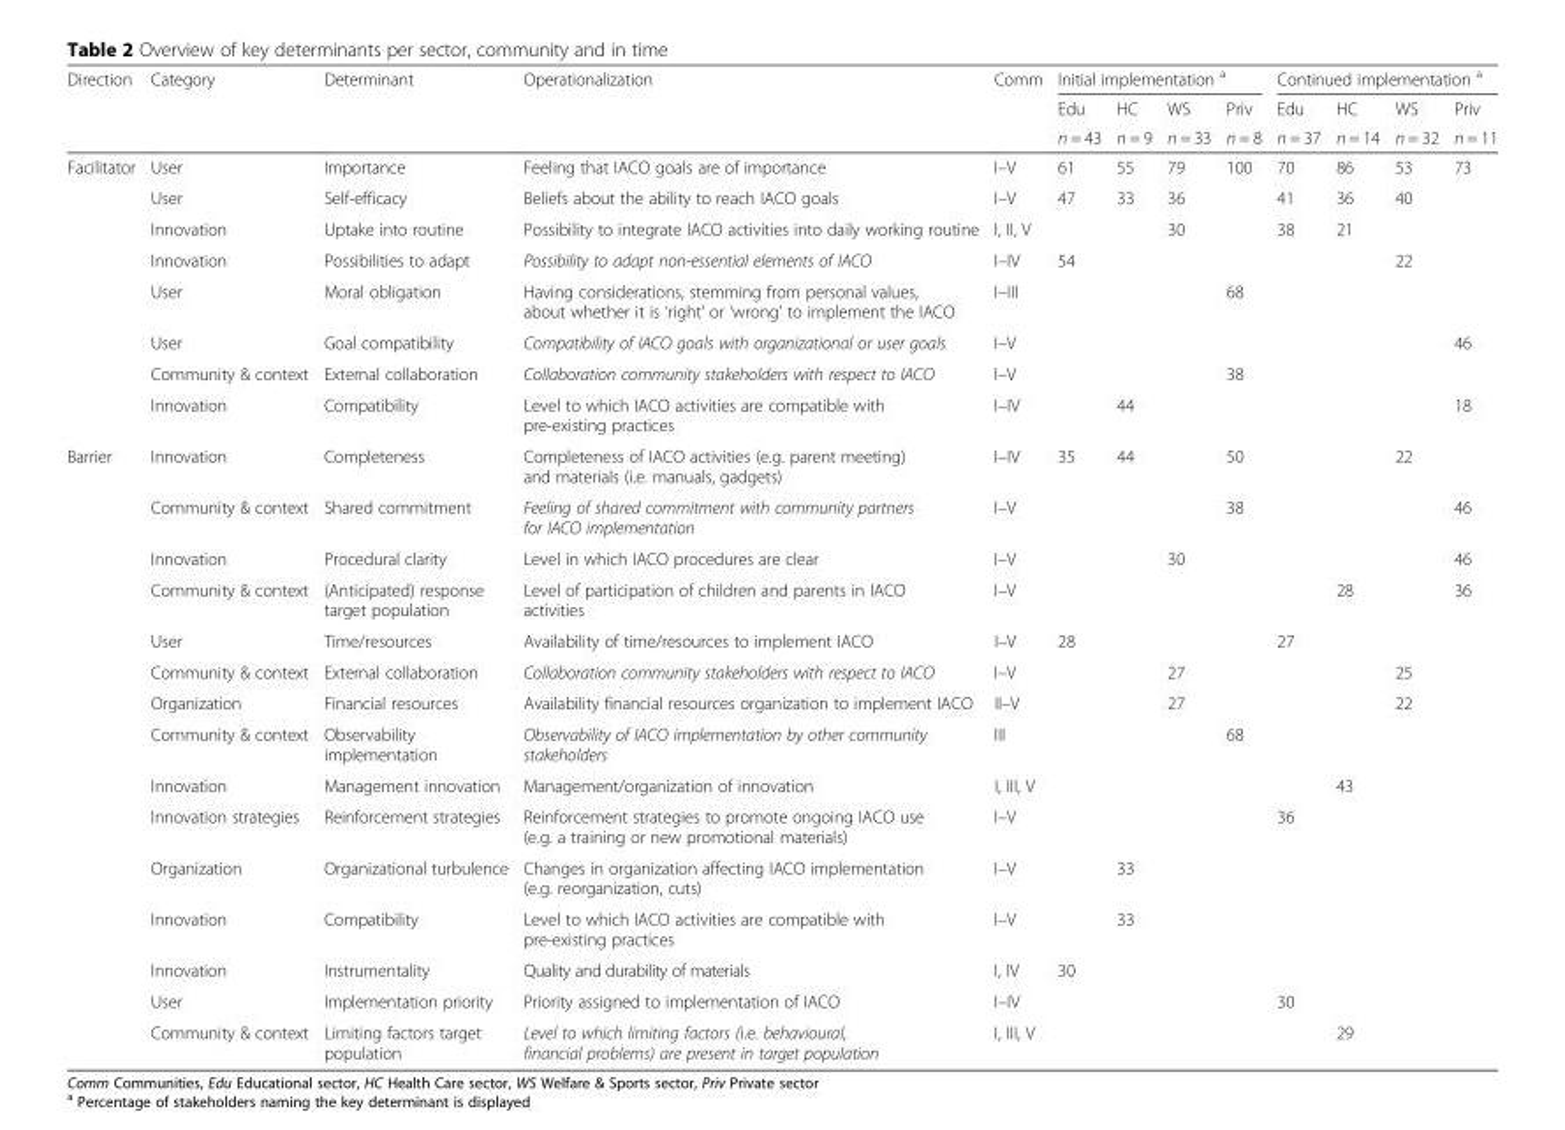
<table><thead><tr><td rowspan="3">Direction</td><td rowspan="3">Category</td><td rowspan="3">Determinant</td><td rowspan="3">Operationalization</td><td rowspan="3">Comm</td><td colspan="4">Initial implementation <sup>a</sup></td><td colspan="4">Continued implementation <sup>a</sup></td></tr><tr><td rowspan="2">Edu n = 43</td><td rowspan="2">HC n = 9</td><td rowspan="2">WS n = 33</td><td rowspan="2">Priv n = 8</td><td rowspan="2">Edu n = 37</td><td rowspan="2">HC n = 14</td><td rowspan="2">WS n = 32</td><td rowspan="2">Priv n = 11</td></tr><tr></tr></thead><tbody><tr><td rowspan="8">Facilitator</td><td>User</td><td>Importance</td><td>Feeling that IACO goals are of importance</td><td>I–V</td><td>61</td><td>55</td><td>79</td><td>100</td><td>70</td><td>86</td><td>53</td><td>73</td></tr><tr><td>User</td><td>Self-efficacy</td><td>Beliefs about the ability to reach IACO goals</td><td>I–V</td><td>47</td><td>33</td><td>36</td><td></td><td>41</td><td>36</td><td>40</td><td></td></tr><tr><td>Innovation</td><td>Uptake into routine</td><td>Possibility to integrate IACO activities into daily working routine</td><td>I, II, V</td><td></td><td></td><td>30</td><td></td><td>38</td><td>21</td><td></td><td></td></tr><tr><td>Innovation</td><td>Possibilities to adapt</td><td>Possibility to adapt non-essential elements of IACO</td><td>I–IV</td><td>54</td><td></td><td></td><td></td><td></td><td></td><td>22</td><td></td></tr><tr><td>User</td><td>Moral obligation</td><td>Having considerations, stemming from personal values, about whether it is ‘right’ or ‘wrong’ to implement the IACO</td><td>I–III</td><td></td><td></td><td></td><td>68</td><td></td><td></td><td></td><td></td></tr><tr><td>User</td><td>Goal compatibility</td><td>Compatibility of IACO goals with organizational or user goals</td><td>I–V</td><td></td><td></td><td></td><td></td><td></td><td></td><td></td><td>46</td></tr><tr><td>Community &amp; context</td><td>External collaboration</td><td>Collaboration community stakeholders with respect to IACO</td><td>I–V</td><td></td><td></td><td></td><td>38</td><td></td><td></td><td></td><td></td></tr><tr><td>Innovation</td><td>Compatibility</td><td>Level to which IACO activities are compatible with pre-existing practices</td><td>I–IV</td><td></td><td>44</td><td></td><td></td><td></td><td></td><td></td><td>18</td></tr><tr><td rowspan="15">Barrier</td><td>Innovation</td><td>Completeness</td><td>Completeness of IACO activities (e.g. parent meeting) and materials (i.e. manuals, gadgets)</td><td>I–IV</td><td>35</td><td>44</td><td></td><td>50</td><td></td><td></td><td>22</td><td></td></tr><tr><td>Community &amp; context</td><td>Shared commitment</td><td>Feeling of shared commitment with community partners for IACO implementation</td><td>I–V</td><td></td><td></td><td></td><td>38</td><td></td><td></td><td></td><td>46</td></tr><tr><td>Innovation</td><td>Procedural clarity</td><td>Level in which IACO procedures are clear</td><td>I–V</td><td></td><td></td><td>30</td><td></td><td></td><td></td><td></td><td>46</td></tr><tr><td>Community &amp; context</td><td>(Anticipated) response target population</td><td>Level of participation of children and parents in IACO activities</td><td>I–V</td><td></td><td></td><td></td><td></td><td></td><td>28</td><td></td><td>36</td></tr><tr><td>User</td><td>Time/resources</td><td>Availability of time/resources to implement IACO</td><td>I–V</td><td>28</td><td></td><td></td><td></td><td>27</td><td></td><td></td><td></td></tr><tr><td>Community &amp; context</td><td>External collaboration</td><td>Collaboration community stakeholders with respect to IACO</td><td>I–V</td><td></td><td></td><td>27</td><td></td><td></td><td></td><td>25</td><td></td></tr><tr><td>Organization</td><td>Financial resources</td><td>Availability financial resources organization to implement IACO</td><td>II–V</td><td></td><td></td><td>27</td><td></td><td></td><td></td><td>22</td><td></td></tr><tr><td>Community &amp; context</td><td>Observability implementation</td><td>Observability of IACO implementation by other community stakeholders</td><td>III</td><td></td><td></td><td></td><td>68</td><td></td><td></td><td></td><td></td></tr><tr><td>Innovation</td><td>Management innovation</td><td>Management/organization of innovation</td><td>I, III, V</td><td></td><td></td><td></td><td></td><td></td><td>43</td><td></td><td></td></tr><tr><td>Innovation strategies</td><td>Reinforcement strategies</td><td>Reinforcement strategies to promote ongoing IACO use (e.g. a training or new promotional materials)</td><td>I–V</td><td></td><td></td><td></td><td></td><td>36</td><td></td><td></td><td></td></tr><tr><td>Organization</td><td>Organizational turbulence</td><td>Changes in organization affecting IACO implementation (e.g. reorganization, cuts)</td><td>I–V</td><td></td><td>33</td><td></td><td></td><td></td><td></td><td></td><td></td></tr><tr><td>Innovation</td><td>Compatibility</td><td>Level to which IACO activities are compatible with pre-existing practices</td><td>I–V</td><td></td><td>33</td><td></td><td></td><td></td><td></td><td></td><td></td></tr><tr><td>Innovation</td><td>Instrumentality</td><td>Quality and durability of materials</td><td>I, IV</td><td>30</td><td></td><td></td><td></td><td></td><td></td><td></td><td></td></tr><tr><td>User</td><td>Implementation priority</td><td>Priority assigned to implementation of IACO</td><td>I–IV</td><td></td><td></td><td></td><td></td><td>30</td><td></td><td></td><td></td></tr><tr><td>Community &amp; context</td><td>Limiting factors target population</td><td>Level to which limiting factors (i.e. behavioural, financial problems) are present in target population</td><td>I, III, V</td><td></td><td></td><td></td><td></td><td></td><td>29</td><td></td><td></td></tr></tbody></table>